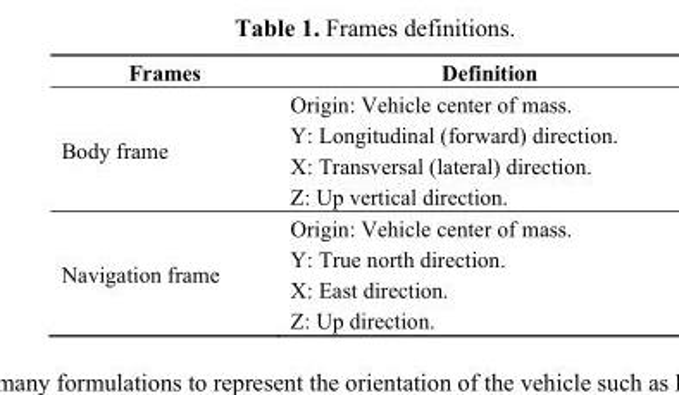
<table><thead><tr><td>Frames</td><td>Definition</td></tr></thead><tbody><tr><td rowspan="4">Body frame</td><td>Origin: Vehicle center of mass.</td></tr><tr><td>Y: Longitudinal (forward) direction.</td></tr><tr><td>X: Transversal (lateral) direction.</td></tr><tr><td>Z: Up vertical direction.</td></tr><tr><td rowspan="4">Navigation frame</td><td>Origin: Vehicle center of mass.</td></tr><tr><td>Y: True north direction.</td></tr><tr><td>X: East direction.</td></tr><tr><td>Z: Up direction.</td></tr></tbody></table>